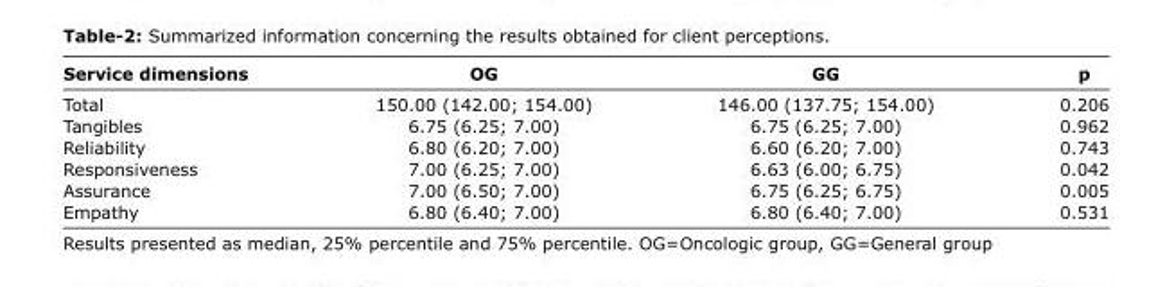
<table><thead><tr><td>Service dimensions</td><td>OG</td><td>GG</td><td>p</td></tr></thead><tbody><tr><td>Total</td><td>150.00 (142.00; 154.00)</td><td>146.00 (137.75; 154.00)</td><td>0.206</td></tr><tr><td>Tangibles</td><td>6.75 (6.25; 7.00)</td><td>6.75 (6.25; 7.00)</td><td>0.962</td></tr><tr><td>Reliability</td><td>6.80 (6.20; 7.00)</td><td>6.60 (6.20; 7.00)</td><td>0.743</td></tr><tr><td>Responsiveness</td><td>7.00 (6.25; 7.00)</td><td>6.63 (6.00; 6.75)</td><td>0.042</td></tr><tr><td>Assurance</td><td>7.00 (6.50; 7.00)</td><td>6.75 (6.25; 6.75)</td><td>0.005</td></tr><tr><td>Empathy</td><td>6.80 (6.40; 7.00)</td><td>6.80 (6.40; 7.00)</td><td>0.531</td></tr></tbody></table>